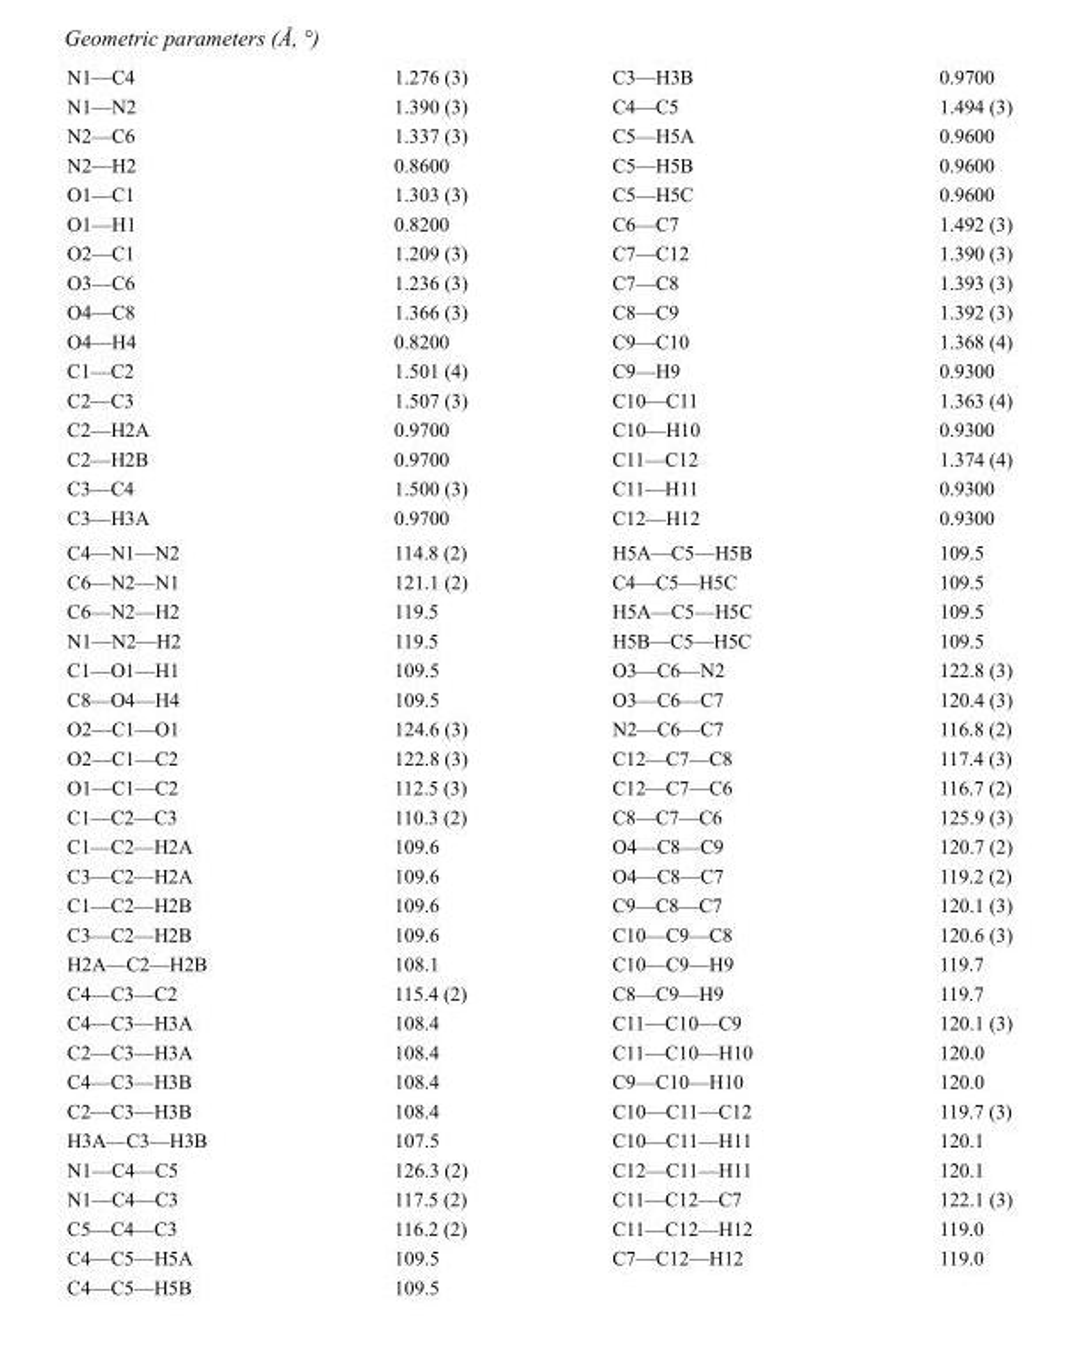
<table><tbody><tr><td>N1—C4</td><td>1.276 (3)</td><td>C3—H3B</td><td>0.9700</td></tr><tr><td>N1—N2</td><td>1.390 (3)</td><td>C4—C5</td><td>1.494 (3)</td></tr><tr><td>N2—C6</td><td>1.337 (3)</td><td>C5—H5A</td><td>0.9600</td></tr><tr><td>N2—H2</td><td>0.8600</td><td>C5—H5B</td><td>0.9600</td></tr><tr><td>O1—C1</td><td>1.303 (3)</td><td>C5—H5C</td><td>0.9600</td></tr><tr><td>O1—H1</td><td>0.8200</td><td>C6—C7</td><td>1.492 (3)</td></tr><tr><td>O2—C1</td><td>1.209 (3)</td><td>C7—C12</td><td>1.390 (3)</td></tr><tr><td>O3—C6</td><td>1.236 (3)</td><td>C7—C8</td><td>1.393 (3)</td></tr><tr><td>O4—C8</td><td>1.366 (3)</td><td>C8—C9</td><td>1.392 (3)</td></tr><tr><td>O4—H4</td><td>0.8200</td><td>C9—C10</td><td>1.368 (4)</td></tr><tr><td>C1—C2</td><td>1.501 (4)</td><td>C9—H9</td><td>0.9300</td></tr><tr><td>C2—C3</td><td>1.507 (3)</td><td>C10—C11</td><td>1.363 (4)</td></tr><tr><td>C2—H2A</td><td>0.9700</td><td>C10—H10</td><td>0.9300</td></tr><tr><td>C2—H2B</td><td>0.9700</td><td>C11—C12</td><td>1.374 (4)</td></tr><tr><td>C3—C4</td><td>1.500 (3)</td><td>C11—H11</td><td>0.9300</td></tr><tr><td>C3—H3A</td><td>0.9700</td><td>C12—H12</td><td>0.9300</td></tr><tr><td>C4—N1—N2</td><td>114.8 (2)</td><td>H5A—C5—H5B</td><td>109.5</td></tr><tr><td>C6—N2—N1</td><td>121.1 (2)</td><td>C4—C5—H5C</td><td>109.5</td></tr><tr><td>C6—N2—H2</td><td>119.5</td><td>H5A—C5—H5C</td><td>109.5</td></tr><tr><td>N1—N2—H2</td><td>119.5</td><td>H5B—C5—H5C</td><td>109.5</td></tr><tr><td>C1—O1—H1</td><td>109.5</td><td>O3—C6—N2</td><td>122.8 (3)</td></tr><tr><td>C8—O4—H4</td><td>109.5</td><td>O3—C6—C7</td><td>120.4 (3)</td></tr><tr><td>O2—C1—O1</td><td>124.6 (3)</td><td>N2—C6—C7</td><td>116.8 (2)</td></tr><tr><td>O2—C1—C2</td><td>122.8 (3)</td><td>C12—C7—C8</td><td>117.4 (3)</td></tr><tr><td>O1—C1—C2</td><td>112.5 (3)</td><td>C12—C7—C6</td><td>116.7 (2)</td></tr><tr><td>C1—C2—C3</td><td>110.3 (2)</td><td>C8—C7—C6</td><td>125.9 (3)</td></tr><tr><td>C1—C2—H2A</td><td>109.6</td><td>O4—C8—C9</td><td>120.7 (2)</td></tr><tr><td>C3—C2—H2A</td><td>109.6</td><td>O4—C8—C7</td><td>119.2 (2)</td></tr><tr><td>C1—C2—H2B</td><td>109.6</td><td>C9—C8—C7</td><td>120.1 (3)</td></tr><tr><td>C3—C2—H2B</td><td>109.6</td><td>C10—C9—C8</td><td>120.6 (3)</td></tr><tr><td>H2A—C2—H2B</td><td>108.1</td><td>C10—C9—H9</td><td>119.7</td></tr><tr><td>C4—C3—C2</td><td>115.4 (2)</td><td>C8—C9—H9</td><td>119.7</td></tr><tr><td>C4—C3—H3A</td><td>108.4</td><td>C11—C10—C9</td><td>120.1 (3)</td></tr><tr><td>C2—C3—H3A</td><td>108.4</td><td>C11—C10—H10</td><td>120.0</td></tr><tr><td>C4—C3—H3B</td><td>108.4</td><td>C9—C10—H10</td><td>120.0</td></tr><tr><td>C2—C3—H3B</td><td>108.4</td><td>C10—C11—C12</td><td>119.7 (3)</td></tr><tr><td>H3A—C3—H3B</td><td>107.5</td><td>C10—C11—H11</td><td>120.1</td></tr><tr><td>N1—C4—C5</td><td>126.3 (2)</td><td>C12—C11—H11</td><td>120.1</td></tr><tr><td>N1—C4—C3</td><td>117.5 (2)</td><td>C11—C12—C7</td><td>122.1 (3)</td></tr><tr><td>C5—C4—C3</td><td>116.2 (2)</td><td>C11—C12—H12</td><td>119.0</td></tr><tr><td>C4—C5—H5A</td><td>109.5</td><td>C7—C12—H12</td><td>119.0</td></tr><tr><td>C4—C5—H5B</td><td>109.5</td><td></td><td></td></tr></tbody></table>